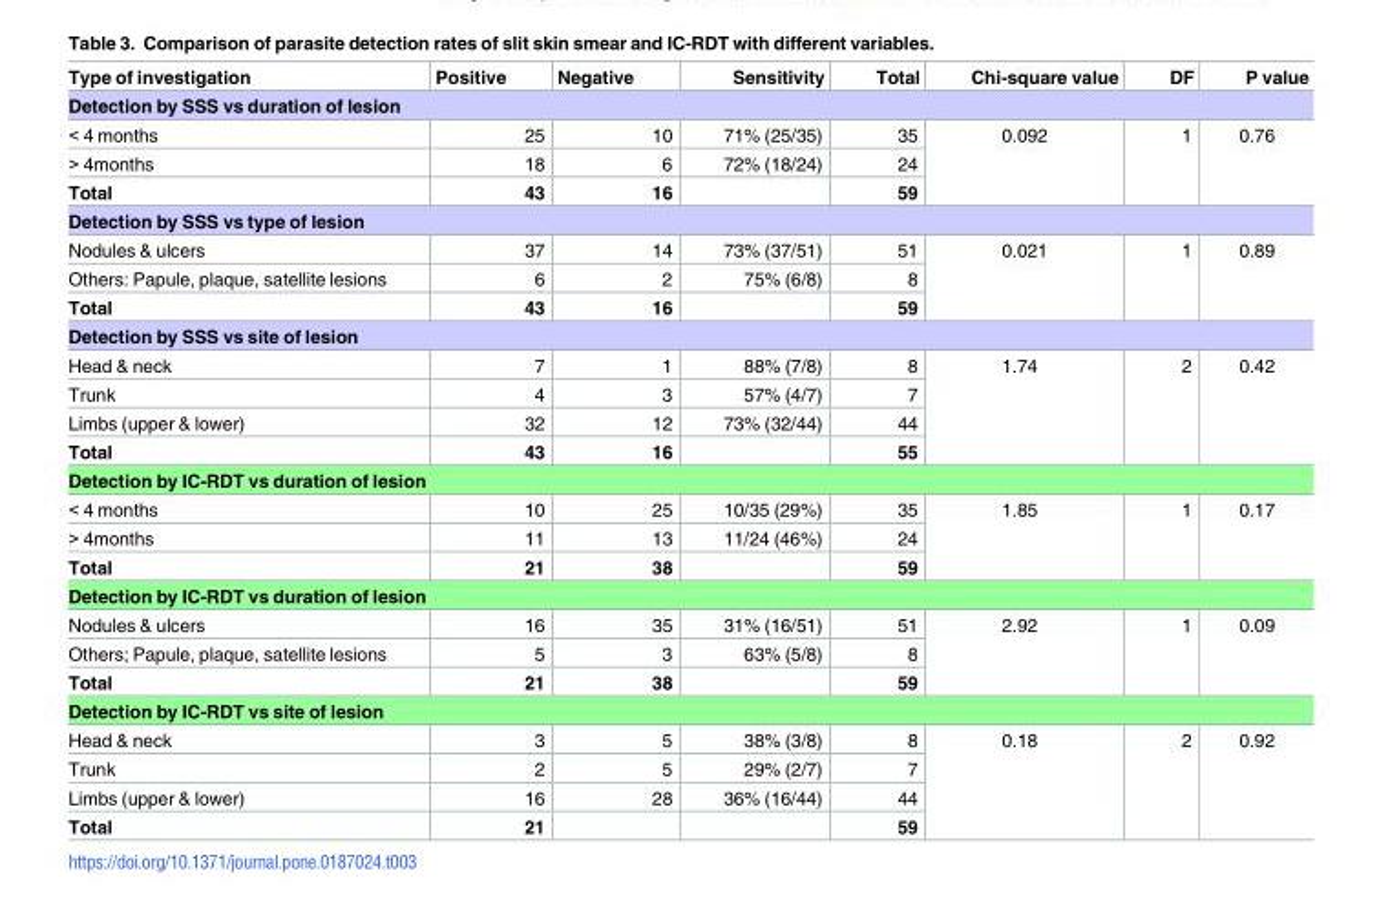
<table><thead><tr><td>Type of investigation</td><td>Positive</td><td>Negative</td><td>Sensitivity</td><td>Total</td><td>Chi-square value</td><td>DF</td><td>P value</td></tr></thead><tbody><tr><td colspan="8">Detection by SSS vs duration of lesion</td></tr><tr><td>&lt; 4 months</td><td>25</td><td>10</td><td>71% (25/35)</td><td>35</td><td rowspan="3">0.092</td><td rowspan="3">1</td><td rowspan="3">0.76</td></tr><tr><td>&gt; 4months</td><td>18</td><td>6</td><td>72% (18/24)</td><td>24</td></tr><tr><td>Total</td><td>43</td><td>16</td><td></td><td>59</td></tr><tr><td colspan="8">Detection by SSS vs type of lesion</td></tr><tr><td>Nodules &amp; ulcers</td><td>37</td><td>14</td><td>73% (37/51)</td><td>51</td><td rowspan="3">0.021</td><td rowspan="3">1</td><td rowspan="3">0.89</td></tr><tr><td>Others: Papule, plaque, satellite lesions</td><td>6</td><td>2</td><td>75% (6/8)</td><td>8</td></tr><tr><td>Total</td><td>43</td><td>16</td><td></td><td>59</td></tr><tr><td colspan="8">Detection by SSS vs site of lesion</td></tr><tr><td>Head &amp; neck</td><td>7</td><td>1</td><td>88% (7/8)</td><td>8</td><td rowspan="4">1.74</td><td rowspan="4">2</td><td rowspan="4">0.42</td></tr><tr><td>Trunk</td><td>4</td><td>3</td><td>57% (4/7)</td><td>7</td></tr><tr><td>Limbs (upper &amp; lower)</td><td>32</td><td>12</td><td>73% (32/44)</td><td>44</td></tr><tr><td>Total</td><td>43</td><td>16</td><td></td><td>55</td></tr><tr><td colspan="8">Detection by IC-RDT vs duration of lesion</td></tr><tr><td>&lt; 4 months</td><td>10</td><td>25</td><td>10/35 (29%)</td><td>35</td><td rowspan="3">1.85</td><td rowspan="3">1</td><td rowspan="3">0.17</td></tr><tr><td>&gt; 4months</td><td>11</td><td>13</td><td>11/24 (46%)</td><td>24</td></tr><tr><td>Total</td><td>21</td><td>38</td><td></td><td>59</td></tr><tr><td colspan="8">Detection by IC-RDT vs duration of lesion</td></tr><tr><td>Nodules &amp; ulcers</td><td>16</td><td>35</td><td>31% (16/51)</td><td>51</td><td rowspan="3">2.92</td><td rowspan="3">1</td><td rowspan="3">0.09</td></tr><tr><td>Others; Papule, plaque, satellite lesions</td><td>5</td><td>3</td><td>63% (5/8)</td><td>8</td></tr><tr><td>Total</td><td>21</td><td>38</td><td></td><td>59</td></tr><tr><td colspan="8">Detection by IC-RDT vs site of lesion</td></tr><tr><td>Head &amp; neck</td><td>3</td><td>5</td><td>38% (3/8)</td><td>8</td><td rowspan="4">0.18</td><td rowspan="4">2</td><td rowspan="4">0.92</td></tr><tr><td>Trunk</td><td>2</td><td>5</td><td>29% (2/7)</td><td>7</td></tr><tr><td>Limbs (upper &amp; lower)</td><td>16</td><td>28</td><td>36% (16/44)</td><td>44</td></tr><tr><td>Total</td><td>21</td><td></td><td></td><td>59</td></tr></tbody></table>